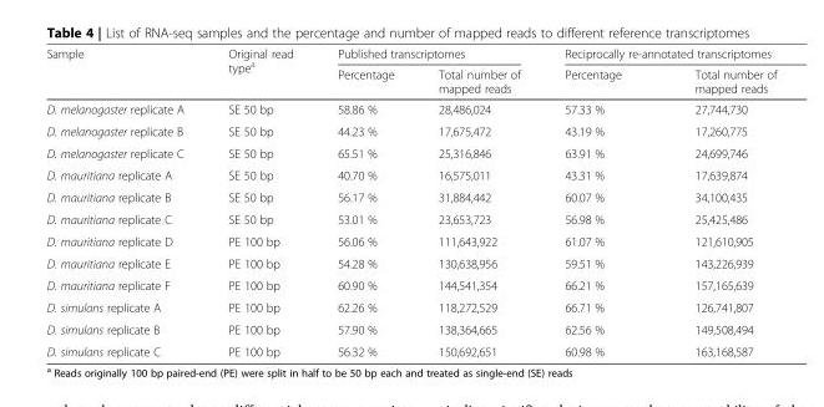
<table><thead><tr><td rowspan="2">Sample</td><td rowspan="2">Original read type<sup>a</sup></td><td colspan="2">Published transcriptomes</td><td colspan="2">Reciprocally re-annotated transcriptomes</td></tr><tr><td>Percentage</td><td>Total number of mapped reads</td><td>Percentage</td><td>Total number of mapped reads</td></tr></thead><tbody><tr><td>D. melanogaster replicate A</td><td>SE 50 bp</td><td>58.86 %</td><td>28,486,024</td><td>57.33 %</td><td>27,744,730</td></tr><tr><td>D. melanogaster replicate B</td><td>SE 50 bp</td><td>44.23 %</td><td>17,675,472</td><td>43.19 %</td><td>17,260,775</td></tr><tr><td>D. melanogaster replicate C</td><td>SE 50 bp</td><td>65.51 %</td><td>25,316,846</td><td>63.91 %</td><td>24,699,746</td></tr><tr><td>D. mauritiana replicate A</td><td>SE 50 bp</td><td>40.70 %</td><td>16,575,011</td><td>43.31 %</td><td>17,639,874</td></tr><tr><td>D. mauritiana replicate B</td><td>SE 50 bp</td><td>56.17 %</td><td>31,884,442</td><td>60.07 %</td><td>34,100,435</td></tr><tr><td>D. mauritiana replicate C</td><td>SE 50 bp</td><td>53.01 %</td><td>23,653,723</td><td>56.98 %</td><td>25,425,486</td></tr><tr><td>D. mauritiana replicate D</td><td>PE 100 bp</td><td>56.06 %</td><td>111,643,922</td><td>61.07 %</td><td>121,610,905</td></tr><tr><td>D. mauritiana replicate E</td><td>PE 100 bp</td><td>54.28 %</td><td>130,638,956</td><td>59.51 %</td><td>143,226,939</td></tr><tr><td>D. mauritiana replicate F</td><td>PE 100 bp</td><td>60.90 %</td><td>144,541,354</td><td>66.21 %</td><td>157,165,639</td></tr><tr><td>D. simulans replicate A</td><td>PE 100 bp</td><td>62.26 %</td><td>118,272,529</td><td>66.71 %</td><td>126,741,807</td></tr><tr><td>D. simulans replicate B</td><td>PE 100 bp</td><td>57.90 %</td><td>138,364,665</td><td>62.56 %</td><td>149,508,494</td></tr><tr><td>D. simulans replicate C</td><td>PE 100 bp</td><td>56.32 %</td><td>150,692,651</td><td>60.98 %</td><td>163,168,587</td></tr></tbody></table>